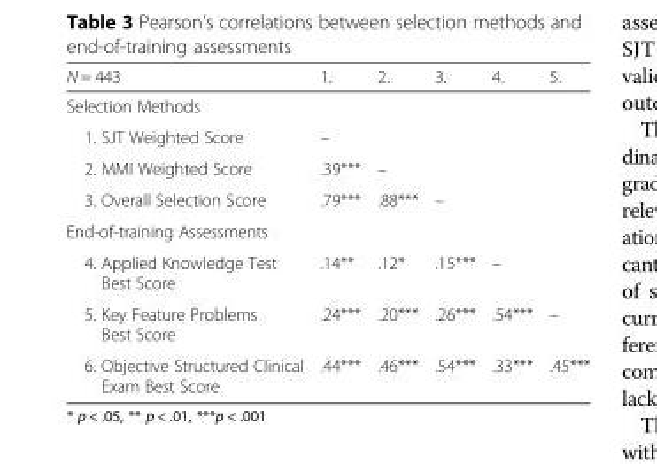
<table><thead><tr><td>N = 443</td><td>1.</td><td>2.</td><td>3.</td><td>4.</td><td>5.</td></tr></thead><tbody><tr><td colspan="6">Selection Methods</td></tr><tr><td>1. SJT Weighted Score</td><td>–</td><td></td><td></td><td></td><td></td></tr><tr><td>2. MMI Weighted Score</td><td>.39***</td><td>–</td><td></td><td></td><td></td></tr><tr><td>3. Overall Selection Score</td><td>.79***</td><td>.88***</td><td>–</td><td></td><td></td></tr><tr><td colspan="6">End-of-training Assessments</td></tr><tr><td>4. Applied Knowledge Test Best Score</td><td>.14**</td><td>.12*</td><td>.15***</td><td>–</td><td></td></tr><tr><td>5. Key Feature Problems Best Score</td><td>.24***</td><td>.20***</td><td>.26***</td><td>.54***</td><td>–</td></tr><tr><td>6. Objective Structured Clinical Exam Best Score</td><td>.44***</td><td>.46***</td><td>.54***</td><td>.33***</td><td>.45***</td></tr></tbody></table>